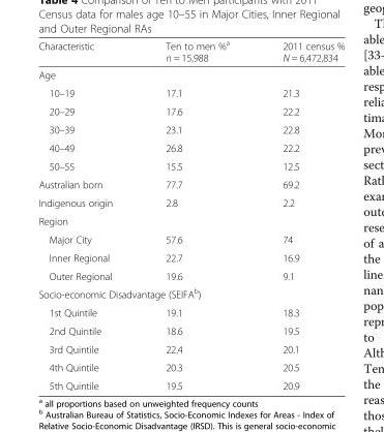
<table><thead><tr><td>Characteristic</td><td>Ten to men %<sup>a</sup> n = 15,988</td><td>2011 census % N = 6,472,834</td></tr></thead><tbody><tr><td colspan="3">Age</td></tr><tr><td>10–19</td><td>17.1</td><td>21.3</td></tr><tr><td>20–29</td><td>17.6</td><td>22.2</td></tr><tr><td>30–39</td><td>23.1</td><td>22.8</td></tr><tr><td>40–49</td><td>26.8</td><td>22.2</td></tr><tr><td>50–55</td><td>15.5</td><td>12.5</td></tr><tr><td>Australian born</td><td>77.7</td><td>69.2</td></tr><tr><td>Indigenous origin</td><td>2.8</td><td>2.2</td></tr><tr><td colspan="3">Region</td></tr><tr><td>Major City</td><td>57.6</td><td>74</td></tr><tr><td>Inner Regional</td><td>22.7</td><td>16.9</td></tr><tr><td>Outer Regional</td><td>19.6</td><td>9.1</td></tr><tr><td colspan="3">Socio-economic Disadvantage (SEIFA<sup>b</sup>)</td></tr><tr><td>1st Quintile</td><td>19.1</td><td>18.3</td></tr><tr><td>2nd Quintile</td><td>18.6</td><td>19.5</td></tr><tr><td>3rd Quintile</td><td>22.4</td><td>20.1</td></tr><tr><td>4th Quintile</td><td>20.3</td><td>20.5</td></tr><tr><td>5th Quintile</td><td>19.5</td><td>20.9</td></tr></tbody></table>